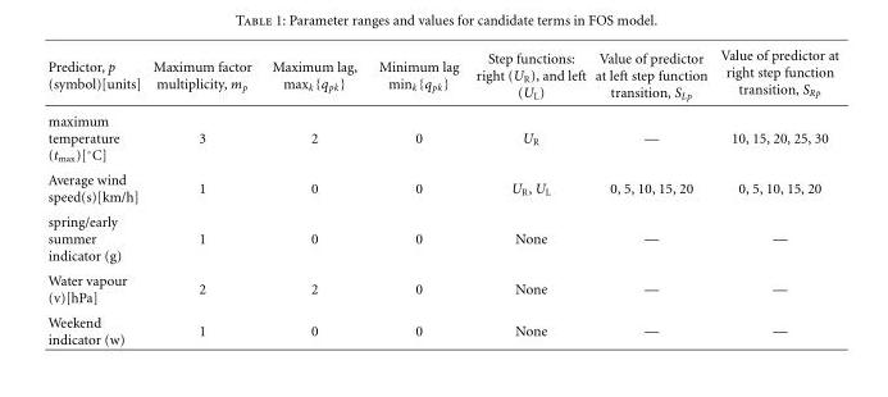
<table><thead><tr><td>Predictor, p (symbol)[units]</td><td>Maximum factor multiplicity, m<sub>p</sub></td><td>Maximum lag, max<sub>k</sub>{q<sub>pk</sub>}</td><td>Minimum lag min<sub>k</sub>{q<sub>pk</sub>}</td><td>Step functions: right (U<sub>R</sub>), and left (U<sub>L</sub>)</td><td>Value of predictor at left step function transition, S<sub>Lp</sub></td><td>Value of predictor at right step function transition, S<sub>Rp</sub></td></tr></thead><tbody><tr><td>maximum temperature (tmax)[◦C]</td><td>3</td><td>2</td><td>0</td><td>U<sub>R</sub></td><td>—</td><td>10, 15, 20, 25, 30</td></tr><tr><td>Average wind speed(s)[km/h]</td><td>1</td><td>0</td><td>0</td><td>U<sub>R</sub>, U<sub>L</sub></td><td>0, 5, 10, 15, 20</td><td>0, 5, 10, 15, 20</td></tr><tr><td>spring/early summer indicator (g)</td><td>1</td><td>0</td><td>0</td><td>None</td><td>—</td><td>—</td></tr><tr><td>Water vapour (v)[hPa]</td><td>2</td><td>2</td><td>0</td><td>None</td><td>—</td><td>—</td></tr><tr><td>Weekend indicator (w)</td><td>1</td><td>0</td><td>0</td><td>None</td><td>—</td><td>—</td></tr></tbody></table>